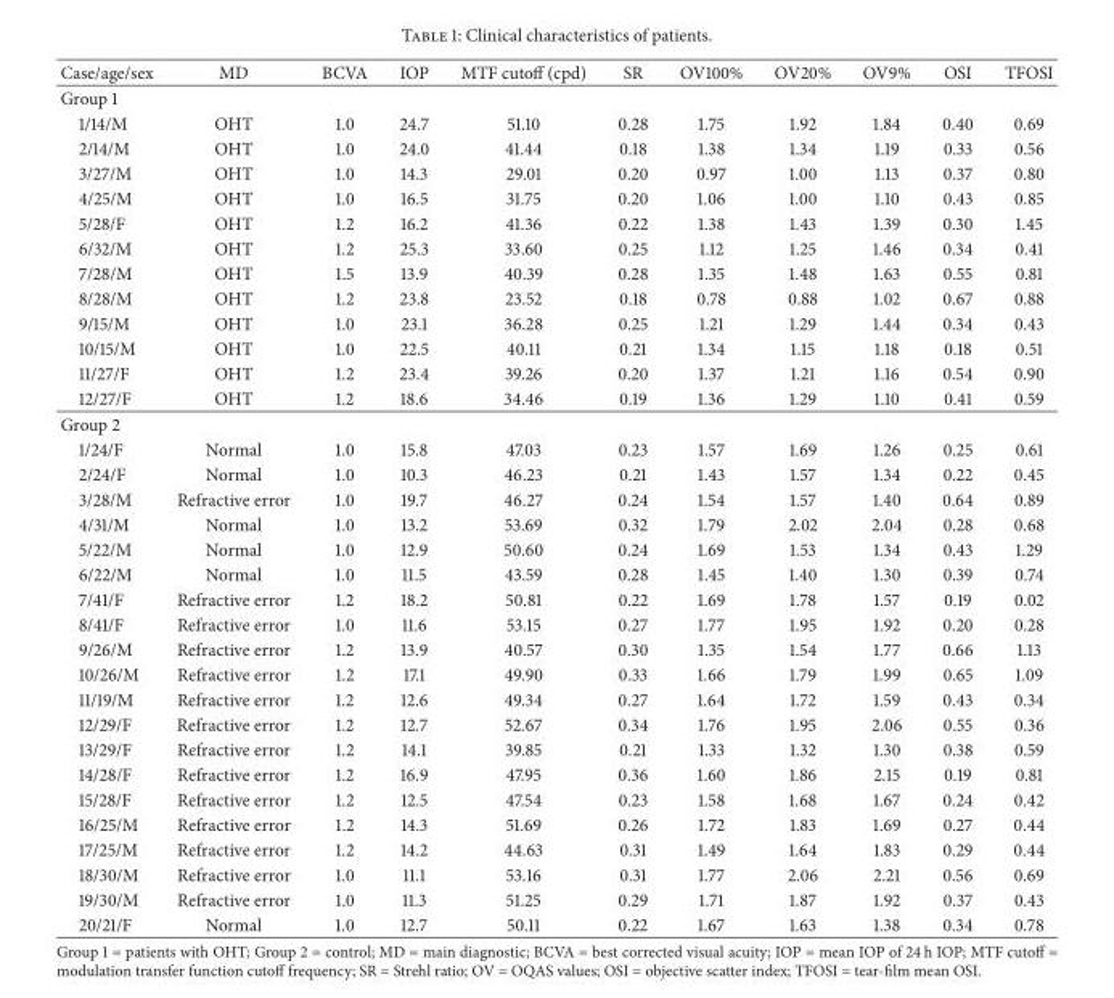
<table><thead><tr><td>Case/age/sex</td><td>MD</td><td>BCVA</td><td>IOP</td><td>MTF cutoff (cpd)</td><td>SR</td><td>OV100%</td><td>OV20%</td><td>OV9%</td><td>OSI</td><td>TFOSI</td></tr></thead><tbody><tr><td colspan="11">Group 1</td></tr><tr><td>1/14/M</td><td>OHT</td><td>1.0</td><td>24.7</td><td>51.10</td><td>0.28</td><td>1.75</td><td>1.92</td><td>1.84</td><td>0.40</td><td>0.69</td></tr><tr><td>2/14/M</td><td>OHT</td><td>1.0</td><td>24.0</td><td>41.44</td><td>0.18</td><td>1.38</td><td>1.34</td><td>1.19</td><td>0.33</td><td>0.56</td></tr><tr><td>3/27/M</td><td>OHT</td><td>1.0</td><td>14.3</td><td>29.01</td><td>0.20</td><td>0.97</td><td>1.00</td><td>1.13</td><td>0.37</td><td>0.80</td></tr><tr><td>4/25/M</td><td>OHT</td><td>1.0</td><td>16.5</td><td>31.75</td><td>0.20</td><td>1.06</td><td>1.00</td><td>1.10</td><td>0.43</td><td>0.85</td></tr><tr><td>5/28/F</td><td>OHT</td><td>1.2</td><td>16.2</td><td>41.36</td><td>0.22</td><td>1.38</td><td>1.43</td><td>1.39</td><td>0.30</td><td>1.45</td></tr><tr><td>6/32/M</td><td>OHT</td><td>1.2</td><td>25.3</td><td>33.60</td><td>0.25</td><td>1.12</td><td>1.25</td><td>1.46</td><td>0.34</td><td>0.41</td></tr><tr><td>7/28/M</td><td>OHT</td><td>1.5</td><td>13.9</td><td>40.39</td><td>0.28</td><td>1.35</td><td>1.48</td><td>1.63</td><td>0.55</td><td>0.81</td></tr><tr><td>8/28/M</td><td>OHT</td><td>1.2</td><td>23.8</td><td>23.52</td><td>0.18</td><td>0.78</td><td>0.88</td><td>1.02</td><td>0.67</td><td>0.88</td></tr><tr><td>9/15/M</td><td>OHT</td><td>1.0</td><td>23.1</td><td>36.28</td><td>0.25</td><td>1.21</td><td>1.29</td><td>1.44</td><td>0.34</td><td>0.43</td></tr><tr><td>10/15/M</td><td>OHT</td><td>1.0</td><td>22.5</td><td>40.11</td><td>0.21</td><td>1.34</td><td>1.15</td><td>1.18</td><td>0.18</td><td>0.51</td></tr><tr><td>11/27/F</td><td>OHT</td><td>1.2</td><td>23.4</td><td>39.26</td><td>0.20</td><td>1.37</td><td>1.21</td><td>1.16</td><td>0.54</td><td>0.90</td></tr><tr><td>12/27/F</td><td>OHT</td><td>1.2</td><td>18.6</td><td>34.46</td><td>0.19</td><td>1.36</td><td>1.29</td><td>1.10</td><td>0.41</td><td>0.59</td></tr><tr><td colspan="11">Group 2</td></tr><tr><td>1/24/F</td><td>Normal</td><td>1.0</td><td>15.8</td><td>47.03</td><td>0.23</td><td>1.57</td><td>1.69</td><td>1.26</td><td>0.25</td><td>0.61</td></tr><tr><td>2/24/F</td><td>Normal</td><td>1.0</td><td>10.3</td><td>46.23</td><td>0.21</td><td>1.43</td><td>1.57</td><td>1.34</td><td>0.22</td><td>0.45</td></tr><tr><td>3/28/M</td><td>Refractive error</td><td>1.0</td><td>19.7</td><td>46.27</td><td>0.24</td><td>1.54</td><td>1.57</td><td>1.40</td><td>0.64</td><td>0.89</td></tr><tr><td>4/31/M</td><td>Normal</td><td>1.0</td><td>13.2</td><td>53.69</td><td>0.32</td><td>1.79</td><td>2.02</td><td>2.04</td><td>0.28</td><td>0.68</td></tr><tr><td>5/22/M</td><td>Normal</td><td>1.0</td><td>12.9</td><td>50.60</td><td>0.24</td><td>1.69</td><td>1.53</td><td>1.34</td><td>0.43</td><td>1.29</td></tr><tr><td>6/22/M</td><td>Normal</td><td>1.0</td><td>11.5</td><td>43.59</td><td>0.28</td><td>1.45</td><td>1.40</td><td>1.30</td><td>0.39</td><td>0.74</td></tr><tr><td>7/41/F</td><td>Refractive error</td><td>1.2</td><td>18.2</td><td>50.81</td><td>0.22</td><td>1.69</td><td>1.78</td><td>1.57</td><td>0.19</td><td>0.02</td></tr><tr><td>8/41/F</td><td>Refractive error</td><td>1.0</td><td>11.6</td><td>53.15</td><td>0.27</td><td>1.77</td><td>1.95</td><td>1.92</td><td>0.20</td><td>0.28</td></tr><tr><td>9/26/M</td><td>Refractive error</td><td>1.2</td><td>13.9</td><td>40.57</td><td>0.30</td><td>1.35</td><td>1.54</td><td>1.77</td><td>0.66</td><td>1.13</td></tr><tr><td>10/26/M</td><td>Refractive error</td><td>1.2</td><td>17.1</td><td>49.90</td><td>0.33</td><td>1.66</td><td>1.79</td><td>1.99</td><td>0.65</td><td>1.09</td></tr><tr><td>11/19/M</td><td>Refractive error</td><td>1.2</td><td>12.6</td><td>49.34</td><td>0.27</td><td>1.64</td><td>1.72</td><td>1.59</td><td>0.43</td><td>0.34</td></tr><tr><td>12/29/F</td><td>Refractive error</td><td>1.2</td><td>12.7</td><td>52.67</td><td>0.34</td><td>1.76</td><td>1.95</td><td>2.06</td><td>0.55</td><td>0.36</td></tr><tr><td>13/29/F</td><td>Refractive error</td><td>1.2</td><td>14.1</td><td>39.85</td><td>0.21</td><td>1.33</td><td>1.32</td><td>1.30</td><td>0.38</td><td>0.59</td></tr><tr><td>14/28/F</td><td>Refractive error</td><td>1.2</td><td>16.9</td><td>47.95</td><td>0.36</td><td>1.60</td><td>1.86</td><td>2.15</td><td>0.19</td><td>0.81</td></tr><tr><td>15/28/F</td><td>Refractive error</td><td>1.2</td><td>12.5</td><td>47.54</td><td>0.23</td><td>1.58</td><td>1.68</td><td>1.67</td><td>0.24</td><td>0.42</td></tr><tr><td>16/25/M</td><td>Refractive error</td><td>1.2</td><td>14.3</td><td>51.69</td><td>0.26</td><td>1.72</td><td>1.83</td><td>1.69</td><td>0.27</td><td>0.44</td></tr><tr><td>17/25/M</td><td>Refractive error</td><td>1.2</td><td>14.2</td><td>44.63</td><td>0.31</td><td>1.49</td><td>1.64</td><td>1.83</td><td>0.29</td><td>0.44</td></tr><tr><td>18/30/M</td><td>Refractive error</td><td>1.0</td><td>11.1</td><td>53.16</td><td>0.31</td><td>1.77</td><td>2.06</td><td>2.21</td><td>0.56</td><td>0.69</td></tr><tr><td>19/30/M</td><td>Refractive error</td><td>1.0</td><td>11.3</td><td>51.25</td><td>0.29</td><td>1.71</td><td>1.87</td><td>1.92</td><td>0.37</td><td>0.43</td></tr><tr><td>20/21/F</td><td>Normal</td><td>1.0</td><td>12.7</td><td>50.11</td><td>0.22</td><td>1.67</td><td>1.63</td><td>1.38</td><td>0.34</td><td>0.78</td></tr></tbody></table>